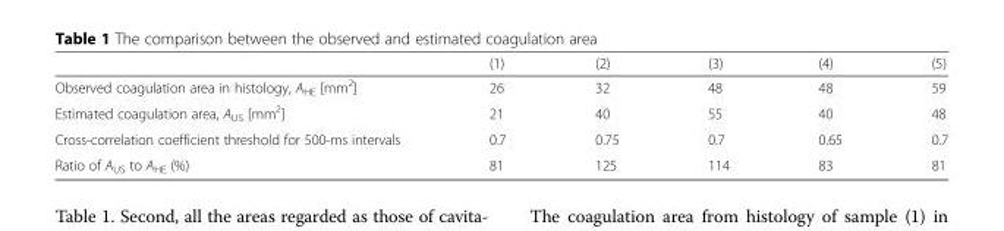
<table><thead><tr><td></td><td>(1)</td><td>(2)</td><td>(3)</td><td>(4)</td><td>(5)</td></tr></thead><tbody><tr><td>Observed coagulation area in histology, A<sub>HE</sub> [mm<sup>2</sup>]</td><td>26</td><td>32</td><td>48</td><td>48</td><td>59</td></tr><tr><td>Estimated coagulation area, A<sub>US</sub> [mm<sup>2</sup>]</td><td>21</td><td>40</td><td>55</td><td>40</td><td>48</td></tr><tr><td>Cross-correlation coefficient threshold for 500-ms intervals</td><td>0.7</td><td>0.75</td><td>0.7</td><td>0.65</td><td>0.7</td></tr><tr><td>Ratio of A<sub>US</sub> to A<sub>HE</sub> (%)</td><td>81</td><td>125</td><td>114</td><td>83</td><td>81</td></tr></tbody></table>